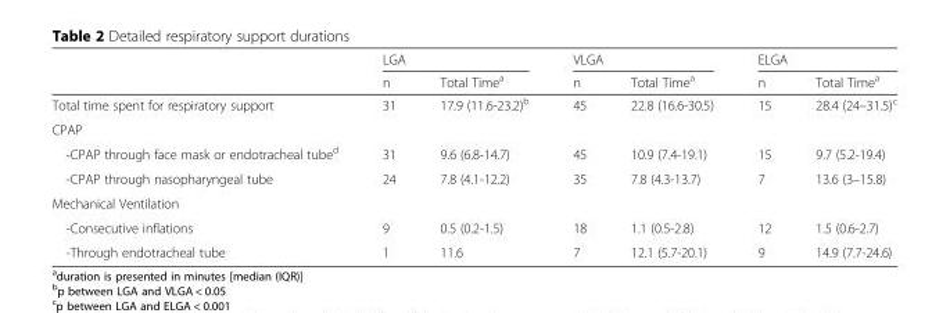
<table><thead><tr><td rowspan="2"></td><td colspan="2">LGA</td><td colspan="2">VLGA</td><td colspan="2">ELGA</td></tr><tr><td>n</td><td>Total Time<sup>a</sup></td><td>n</td><td>Total Time<sup>a</sup></td><td>n</td><td>Total Time<sup>a</sup></td></tr></thead><tbody><tr><td>Total time spent for respiratory support</td><td>31</td><td>17.9 (11.6-23.2)<sup>b</sup></td><td>45</td><td>22.8 (16.6-30.5)</td><td>15</td><td>28.4 (24–31.5)<sup>c</sup></td></tr><tr><td colspan="7">CPAP</td></tr><tr><td>-CPAP through face mask or endotracheal tube<sup>d</sup></td><td>31</td><td>9.6 (6.8-14.7)</td><td>45</td><td>10.9 (7.4-19.1)</td><td>15</td><td>9.7 (5.2-19.4)</td></tr><tr><td>-CPAP through nasopharyngeal tube</td><td>24</td><td>7.8 (4.1-12.2)</td><td>35</td><td>7.8 (4.3-13.7)</td><td>7</td><td>13.6 (3–15.8)</td></tr><tr><td colspan="7">Mechanical Ventilation</td></tr><tr><td>-Consecutive inflations</td><td>9</td><td>0.5 (0.2-1.5)</td><td>18</td><td>1.1 (0.5-2.8)</td><td>12</td><td>1.5 (0.6-2.7)</td></tr><tr><td>-Through endotracheal tube</td><td>1</td><td>11.6</td><td>7</td><td>12.1 (5.7-20.1)</td><td>9</td><td>14.9 (7.7-24.6)</td></tr></tbody></table>